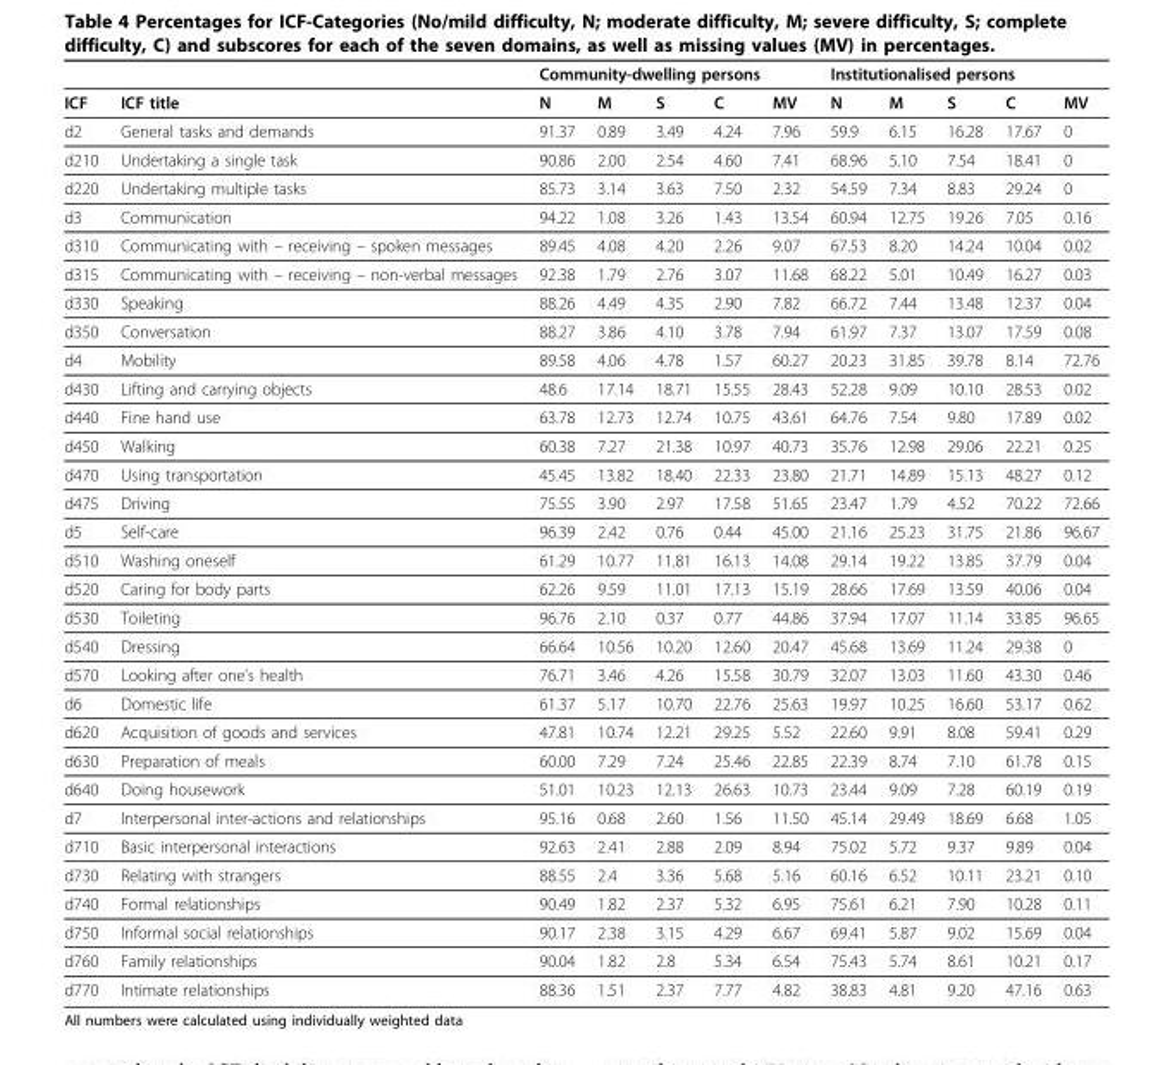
<table><thead><tr><td rowspan="2">ICF</td><td rowspan="2">ICF title</td><td colspan="5">Community-dwelling persons</td><td colspan="5">Institutionalised persons</td></tr><tr><td>N</td><td>M</td><td>S</td><td>C</td><td>MV</td><td>N</td><td>M</td><td>S</td><td>C</td><td>MV</td></tr></thead><tbody><tr><td>d2</td><td>General tasks and demands</td><td>91.37</td><td>0.89</td><td>3.49</td><td>4.24</td><td>7.96</td><td>59.9</td><td>6.15</td><td>16.28</td><td>17.67</td><td>0</td></tr><tr><td>d210</td><td>Undertaking a single task</td><td>90.86</td><td>2.00</td><td>2.54</td><td>4.60</td><td>7.41</td><td>68.96</td><td>5.10</td><td>7.54</td><td>18.41</td><td>0</td></tr><tr><td>d220</td><td>Undertaking multiple tasks</td><td>85.73</td><td>3.14</td><td>3.63</td><td>7.50</td><td>2.32</td><td>54.59</td><td>7.34</td><td>8.83</td><td>29.24</td><td>0</td></tr><tr><td>d3</td><td>Communication</td><td>94.22</td><td>1.08</td><td>3.26</td><td>1.43</td><td>13.54</td><td>60.94</td><td>12.75</td><td>19.26</td><td>7.05</td><td>0.16</td></tr><tr><td>d310</td><td>Communicating with – receiving – spoken messages</td><td>89.45</td><td>4.08</td><td>4.20</td><td>2.26</td><td>9.07</td><td>67.53</td><td>8.20</td><td>14.24</td><td>10.04</td><td>0.02</td></tr><tr><td>d315</td><td>Communicating with – receiving – non-verbal messages</td><td>92.38</td><td>1.79</td><td>2.76</td><td>3.07</td><td>11.68</td><td>68.22</td><td>5.01</td><td>10.49</td><td>16.27</td><td>0.03</td></tr><tr><td>d330</td><td>Speaking</td><td>88.26</td><td>4.49</td><td>4.35</td><td>2.90</td><td>7.82</td><td>66.72</td><td>7.44</td><td>13.48</td><td>12.37</td><td>0.04</td></tr><tr><td>d350</td><td>Conversation</td><td>88.27</td><td>3.86</td><td>4.10</td><td>3.78</td><td>7.94</td><td>61.97</td><td>7.37</td><td>13.07</td><td>17.59</td><td>0.08</td></tr><tr><td>d4</td><td>Mobility</td><td>89.58</td><td>4.06</td><td>4.78</td><td>1.57</td><td>60.27</td><td>20.23</td><td>31.85</td><td>39.78</td><td>8.14</td><td>72.76</td></tr><tr><td>d430</td><td>Lifting and carrying objects</td><td>48.6</td><td>17.14</td><td>18.71</td><td>15.55</td><td>28.43</td><td>52.28</td><td>9.09</td><td>10.10</td><td>28.53</td><td>0.02</td></tr><tr><td>d440</td><td>Fine hand use</td><td>63.78</td><td>12.73</td><td>12.74</td><td>10.75</td><td>43.61</td><td>64.76</td><td>7.54</td><td>9.80</td><td>17.89</td><td>0.02</td></tr><tr><td>d450</td><td>Walking</td><td>60.38</td><td>7.27</td><td>21.38</td><td>10.97</td><td>40.73</td><td>35.76</td><td>12.98</td><td>29.06</td><td>22.21</td><td>0.25</td></tr><tr><td>d470</td><td>Using transportation</td><td>45.45</td><td>13.82</td><td>18.40</td><td>22.33</td><td>23.80</td><td>21.71</td><td>14.89</td><td>15.13</td><td>48.27</td><td>0.12</td></tr><tr><td>d475</td><td>Driving</td><td>75.55</td><td>3.90</td><td>2.97</td><td>17.58</td><td>51.65</td><td>23.47</td><td>1.79</td><td>4.52</td><td>70.22</td><td>72.66</td></tr><tr><td>d5</td><td>Self-care</td><td>96.39</td><td>2.42</td><td>0.76</td><td>0.44</td><td>45.00</td><td>21.16</td><td>25.23</td><td>31.75</td><td>21.86</td><td>96.67</td></tr><tr><td>d510</td><td>Washing oneself</td><td>61.29</td><td>10.77</td><td>11.81</td><td>16.13</td><td>14.08</td><td>29.14</td><td>19.22</td><td>13.85</td><td>37.79</td><td>0.04</td></tr><tr><td>d520</td><td>Caring for body parts</td><td>62.26</td><td>9.59</td><td>11.01</td><td>17.13</td><td>15.19</td><td>28.66</td><td>17.69</td><td>13.59</td><td>40.06</td><td>0.04</td></tr><tr><td>d530</td><td>Toileting</td><td>96.76</td><td>2.10</td><td>0.37</td><td>0.77</td><td>44.86</td><td>37.94</td><td>17.07</td><td>11.14</td><td>33.85</td><td>96.65</td></tr><tr><td>d540</td><td>Dressing</td><td>66.64</td><td>10.56</td><td>10.20</td><td>12.60</td><td>20.47</td><td>45.68</td><td>13.69</td><td>11.24</td><td>29.38</td><td>0</td></tr><tr><td>d570</td><td>Looking after one’s health</td><td>76.71</td><td>3.46</td><td>4.26</td><td>15.58</td><td>30.79</td><td>32.07</td><td>13.03</td><td>11.60</td><td>43.30</td><td>0.46</td></tr><tr><td>d6</td><td>Domestic life</td><td>61.37</td><td>5.17</td><td>10.70</td><td>22.76</td><td>25.63</td><td>19.97</td><td>10.25</td><td>16.60</td><td>53.17</td><td>0.62</td></tr><tr><td>d620</td><td>Acquisition of goods and services</td><td>47.81</td><td>10.74</td><td>12.21</td><td>29.25</td><td>5.52</td><td>22.60</td><td>9.91</td><td>8.08</td><td>59.41</td><td>0.29</td></tr><tr><td>d630</td><td>Preparation of meals</td><td>60.00</td><td>7.29</td><td>7.24</td><td>25.46</td><td>22.85</td><td>22.39</td><td>8.74</td><td>7.10</td><td>61.78</td><td>0.15</td></tr><tr><td>d640</td><td>Doing housework</td><td>51.01</td><td>10.23</td><td>12.13</td><td>26.63</td><td>10.73</td><td>23.44</td><td>9.09</td><td>7.28</td><td>60.19</td><td>0.19</td></tr><tr><td>d7</td><td>Interpersonal inter-actions and relationships</td><td>95.16</td><td>0.68</td><td>2.60</td><td>1.56</td><td>11.50</td><td>45.14</td><td>29.49</td><td>18.69</td><td>6.68</td><td>1.05</td></tr><tr><td>d710</td><td>Basic interpersonal interactions</td><td>92.63</td><td>2.41</td><td>2.88</td><td>2.09</td><td>8.94</td><td>75.02</td><td>5.72</td><td>9.37</td><td>9.89</td><td>0.04</td></tr><tr><td>d730</td><td>Relating with strangers</td><td>88.55</td><td>2.4</td><td>3.36</td><td>5.68</td><td>5.16</td><td>60.16</td><td>6.52</td><td>10.11</td><td>23.21</td><td>0.10</td></tr><tr><td>d740</td><td>Formal relationships</td><td>90.49</td><td>1.82</td><td>2.37</td><td>5.32</td><td>6.95</td><td>75.61</td><td>6.21</td><td>7.90</td><td>10.28</td><td>0.11</td></tr><tr><td>d750</td><td>Informal social relationships</td><td>90.17</td><td>2.38</td><td>3.15</td><td>4.29</td><td>6.67</td><td>69.41</td><td>5.87</td><td>9.02</td><td>15.69</td><td>0.04</td></tr><tr><td>d760</td><td>Family relationships</td><td>90.04</td><td>1.82</td><td>2.8</td><td>5.34</td><td>6.54</td><td>75.43</td><td>5.74</td><td>8.61</td><td>10.21</td><td>0.17</td></tr><tr><td>d770</td><td>Intimate relationships</td><td>88.36</td><td>1.51</td><td>2.37</td><td>7.77</td><td>4.82</td><td>38.83</td><td>4.81</td><td>9.20</td><td>47.16</td><td>0.63</td></tr></tbody></table>